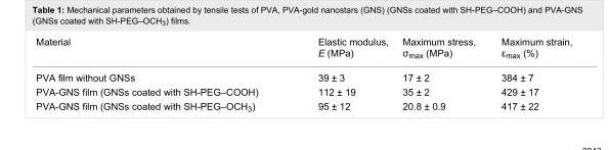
<table><tbody><tr><td>Material</td><td>Elastic modulus, E (MPa)</td><td>Maximum stress, σ<sub>max</sub> (MPa)</td><td>Maximum strain, ε<sub>max</sub> (%)</td></tr><tr><td>PVA film without GNSs</td><td>39 ± 3</td><td>17 ± 2</td><td>384 ± 7</td></tr><tr><td>PVA-GNS film (GNSs coated with SH-PEG–COOH)</td><td>112 ± 19</td><td>35 ± 2</td><td>429 ± 17</td></tr><tr><td>PVA-GNS film (GNSs coated with SH-PEG–OCH<sub>3</sub>)</td><td>95 ± 12</td><td>20.8 ± 0.9</td><td>417 ± 22</td></tr></tbody></table>